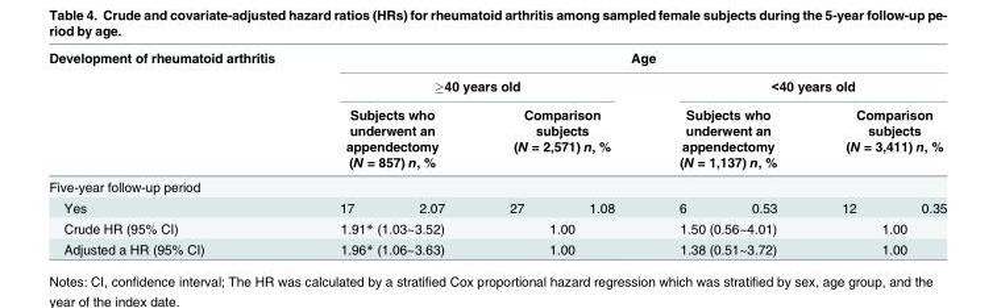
<table><thead><tr><td rowspan="4">Development of rheumatoid arthritis Five-year follow-up period</td><td colspan="8">Age</td></tr><tr><td colspan="4">≥40 years old</td><td colspan="4">&lt;40 years old</td></tr><tr><td colspan="2">Subjects who underwent an appendectomy (N = 857) n, %</td><td colspan="2">Comparison subjects (N = 2,571) n, %</td><td colspan="2">Subjects who underwent an appendectomy (N = 1,137) n, %</td><td colspan="2">Comparison subjects (N = 3,411) n, %</td></tr><tr><td></td><td></td><td></td><td></td><td></td><td></td><td></td><td></td></tr></thead><tbody><tr><td>Yes</td><td>17</td><td>2.07</td><td>27</td><td>1.08</td><td>6</td><td>0.53</td><td>12</td><td>0.35</td></tr><tr><td>Crude HR (95% CI)</td><td colspan="2">1.91* (1.03~3.52)</td><td colspan="2">1.00</td><td colspan="2">1.50 (0.56~4.01)</td><td colspan="2">1.00</td></tr><tr><td>Adjusted a HR (95% CI)</td><td colspan="2">1.96* (1.06~3.63)</td><td colspan="2">1.00</td><td colspan="2">1.38 (0.51~3.72)</td><td colspan="2">1.00</td></tr></tbody></table>